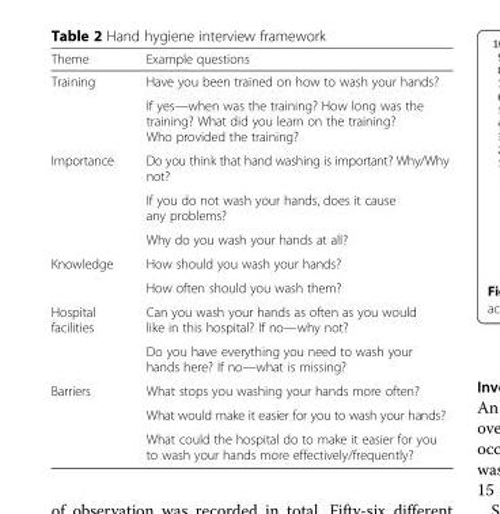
<table><thead><tr><td>Theme</td><td>Example questions</td></tr></thead><tbody><tr><td rowspan="2">Training</td><td>Have you been trained on how to wash your hands?</td></tr><tr><td>If yes—when was the training? How long was the training? What did you learn on the training? Who provided the training?</td></tr><tr><td rowspan="3">Importance</td><td>Do you think that hand washing is important? Why/Why not?</td></tr><tr><td>If you do not wash your hands, does it cause any problems?</td></tr><tr><td>Why do you wash your hands at all?</td></tr><tr><td rowspan="2">Knowledge</td><td>How should you wash your hands?</td></tr><tr><td>How often should you wash them?</td></tr><tr><td rowspan="2">Hospital facilities</td><td>Can you wash your hands as often as you would like in this hospital? If no—why not?</td></tr><tr><td>Do you have everything you need to wash your hands here? If no—what is missing?</td></tr><tr><td rowspan="3">Barriers</td><td>What stops you washing your hands more often?</td></tr><tr><td>What would make it easier for you to wash your hands?</td></tr><tr><td>What could the hospital do to make it easier for you to wash your hands more effectively/frequently?</td></tr></tbody></table>